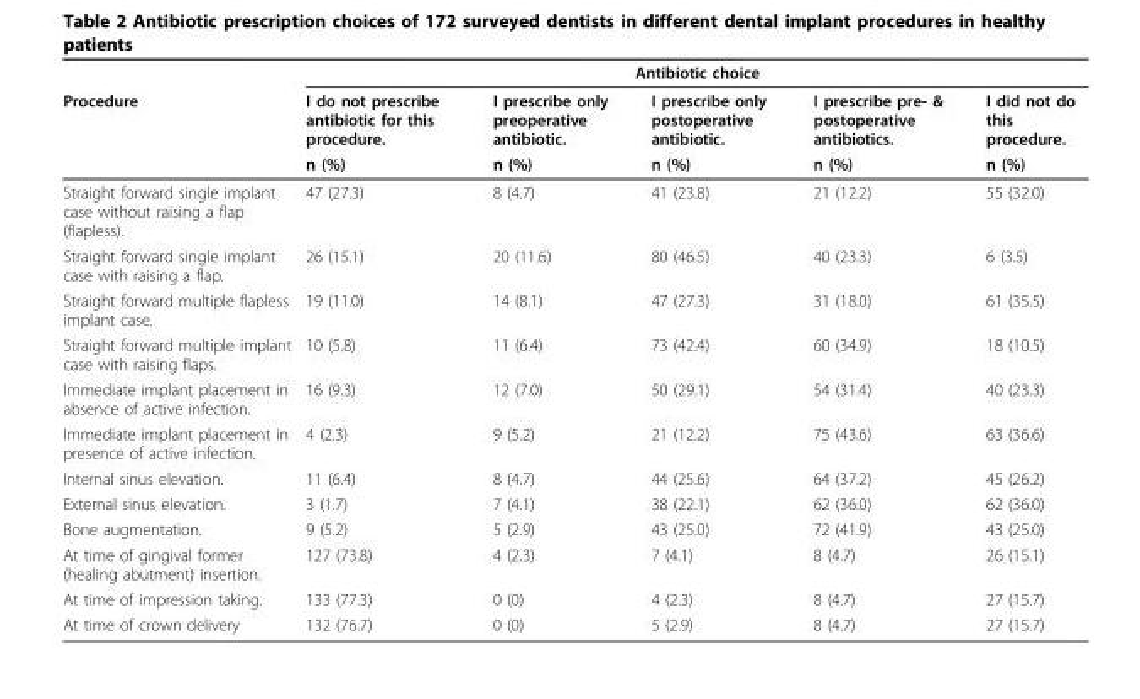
<table><thead><tr><td rowspan="3">Procedure</td><td colspan="5">Antibiotic choice</td></tr><tr><td rowspan="2">I do not prescribe antibiotic for this procedure. n (%)</td><td rowspan="2">I prescribe only preoperative antibiotic. n (%)</td><td rowspan="2">I prescribe only postoperative antibiotic. n (%)</td><td rowspan="2">I prescribe pre- &amp; postoperative antibiotics. n (%)</td><td rowspan="2">I did not do this procedure. n (%)</td></tr><tr></tr></thead><tbody><tr><td>Straight forward single implant case without raising a flap (flapless).</td><td>47 (27.3)</td><td>8 (4.7)</td><td>41 (23.8)</td><td>21 (12.2)</td><td>55 (32.0)</td></tr><tr><td>Straight forward single implant case with raising a flap.</td><td>26 (15.1)</td><td>20 (11.6)</td><td>80 (46.5)</td><td>40 (23.3)</td><td>6 (3.5)</td></tr><tr><td>Straight forward multiple flapless implant case.</td><td>19 (11.0)</td><td>14 (8.1)</td><td>47 (27.3)</td><td>31 (18.0)</td><td>61 (35.5)</td></tr><tr><td>Straight forward multiple implant case with raising flaps.</td><td>10 (5.8)</td><td>11 (6.4)</td><td>73 (42.4)</td><td>60 (34.9)</td><td>18 (10.5)</td></tr><tr><td>Immediate implant placement in absence of active infection.</td><td>16 (9.3)</td><td>12 (7.0)</td><td>50 (29.1)</td><td>54 (31.4)</td><td>40 (23.3)</td></tr><tr><td>Immediate implant placement in presence of active infection.</td><td>4 (2.3)</td><td>9 (5.2)</td><td>21 (12.2)</td><td>75 (43.6)</td><td>63 (36.6)</td></tr><tr><td>Internal sinus elevation.</td><td>11 (6.4)</td><td>8 (4.7)</td><td>44 (25.6)</td><td>64 (37.2)</td><td>45 (26.2)</td></tr><tr><td>External sinus elevation.</td><td>3 (1.7)</td><td>7 (4.1)</td><td>38 (22.1)</td><td>62 (36.0)</td><td>62 (36.0)</td></tr><tr><td>Bone augmentation.</td><td>9 (5.2)</td><td>5 (2.9)</td><td>43 (25.0)</td><td>72 (41.9)</td><td>43 (25.0)</td></tr><tr><td>At time of gingival former (healing abutment) insertion.</td><td>127 (73.8)</td><td>4 (2.3)</td><td>7 (4.1)</td><td>8 (4.7)</td><td>26 (15.1)</td></tr><tr><td>At time of impression taking.</td><td>133 (77.3)</td><td>0 (0)</td><td>4 (2.3)</td><td>8 (4.7)</td><td>27 (15.7)</td></tr><tr><td>At time of crown delivery</td><td>132 (76.7)</td><td>0 (0)</td><td>5 (2.9)</td><td>8 (4.7)</td><td>27 (15.7)</td></tr></tbody></table>